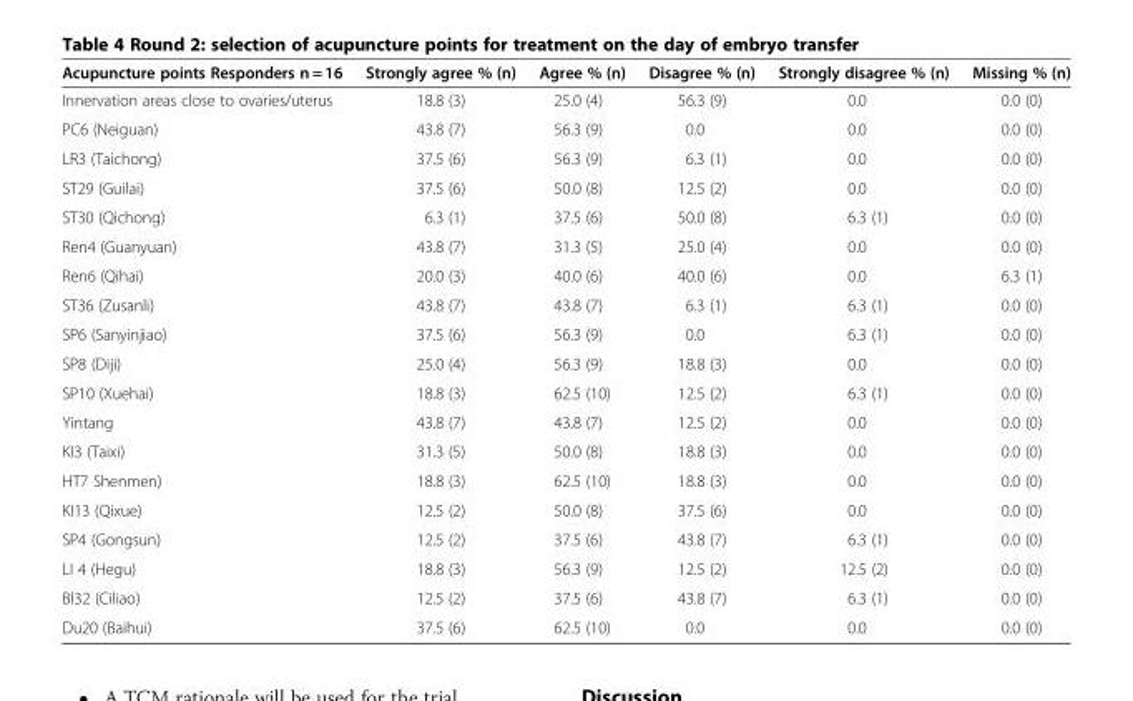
<table><thead><tr><td>Acupuncture points Responders n = 16</td><td>Strongly agree % (n)</td><td>Agree % (n)</td><td>Disagree % (n)</td><td>Strongly disagree % (n)</td><td>Missing % (n)</td></tr></thead><tbody><tr><td>Innervation areas close to ovaries/uterus</td><td>18.8 (3)</td><td>25.0 (4)</td><td>56.3 (9)</td><td>0.0</td><td>0.0 (0)</td></tr><tr><td>PC6 (Neiguan)</td><td>43.8 (7)</td><td>56.3 (9)</td><td>0.0</td><td>0.0</td><td>0.0 (0)</td></tr><tr><td>LR3 (Taichong)</td><td>37.5 (6)</td><td>56.3 (9)</td><td>6.3 (1)</td><td>0.0</td><td>0.0 (0)</td></tr><tr><td>ST29 (Guilai)</td><td>37.5 (6)</td><td>50.0 (8)</td><td>12.5 (2)</td><td>0.0</td><td>0.0 (0)</td></tr><tr><td>ST30 (Qichong)</td><td>6.3 (1)</td><td>37.5 (6)</td><td>50.0 (8)</td><td>6.3 (1)</td><td>0.0 (0)</td></tr><tr><td>Ren4 (Guanyuan)</td><td>43.8 (7)</td><td>31.3 (5)</td><td>25.0 (4)</td><td>0.0</td><td>0.0 (0)</td></tr><tr><td>Ren6 (Qihai)</td><td>20.0 (3)</td><td>40.0 (6)</td><td>40.0 (6)</td><td>0.0</td><td>6.3 (1)</td></tr><tr><td>ST36 (Zusanli)</td><td>43.8 (7)</td><td>43.8 (7)</td><td>6.3 (1)</td><td>6.3 (1)</td><td>0.0 (0)</td></tr><tr><td>SP6 (Sanyinjiao)</td><td>37.5 (6)</td><td>56.3 (9)</td><td>0.0</td><td>6.3 (1)</td><td>0.0 (0)</td></tr><tr><td>SP8 (Diji)</td><td>25.0 (4)</td><td>56.3 (9)</td><td>18.8 (3)</td><td>0.0</td><td>0.0 (0)</td></tr><tr><td>SP10 (Xuehai)</td><td>18.8 (3)</td><td>62.5 (10)</td><td>12.5 (2)</td><td>6.3 (1)</td><td>0.0 (0)</td></tr><tr><td>Yintang</td><td>43.8 (7)</td><td>43.8 (7)</td><td>12.5 (2)</td><td>0.0</td><td>0.0 (0)</td></tr><tr><td>KI3 (Taixi)</td><td>31.3 (5)</td><td>50.0 (8)</td><td>18.8 (3)</td><td>0.0</td><td>0.0 (0)</td></tr><tr><td>HT7 Shenmen)</td><td>18.8 (3)</td><td>62.5 (10)</td><td>18.8 (3)</td><td>0.0</td><td>0.0 (0)</td></tr><tr><td>KI13 (Qixue)</td><td>12.5 (2)</td><td>50.0 (8)</td><td>37.5 (6)</td><td>0.0</td><td>0.0 (0)</td></tr><tr><td>SP4 (Gongsun)</td><td>12.5 (2)</td><td>37.5 (6)</td><td>43.8 (7)</td><td>6.3 (1)</td><td>0.0 (0)</td></tr><tr><td>LI 4 (Hegu)</td><td>18.8 (3)</td><td>56.3 (9)</td><td>12.5 (2)</td><td>12.5 (2)</td><td>0.0 (0)</td></tr><tr><td>Bl32 (Ciliao)</td><td>12.5 (2)</td><td>37.5 (6)</td><td>43.8 (7)</td><td>6.3 (1)</td><td>0.0 (0)</td></tr><tr><td>Du20 (Baihui)</td><td>37.5 (6)</td><td>62.5 (10)</td><td>0.0</td><td>0.0</td><td>0.0 (0)</td></tr></tbody></table>